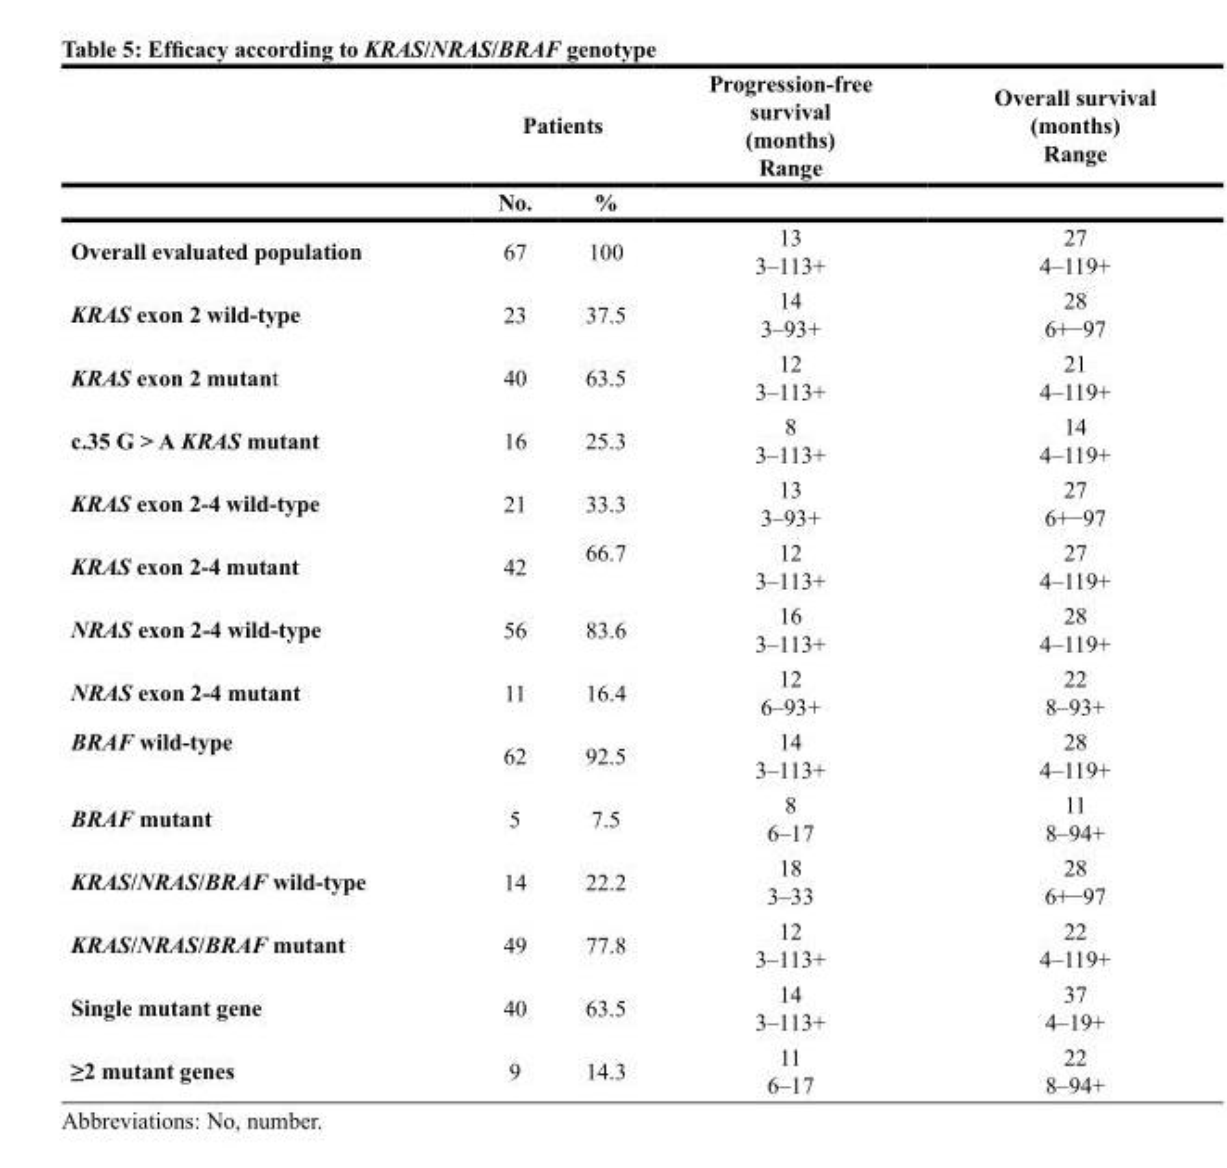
<table><thead><tr><td rowspan="2"></td><td colspan="2">Patients</td><td rowspan="2">Progression-free survival (months) Range</td><td rowspan="2">Overall survival (months) Range</td></tr><tr><td>No.</td><td>%</td></tr></thead><tbody><tr><td>Overall evaluated population</td><td>67</td><td>100</td><td>13 3–113+</td><td>27 4–119+</td></tr><tr><td>KRAS exon 2 wild-type</td><td>23</td><td>37.5</td><td>14 3–93+</td><td>28 6+−97</td></tr><tr><td>KRAS exon 2 mutant</td><td>40</td><td>63.5</td><td>12 3–113+</td><td>21 4–119+</td></tr><tr><td>c.35 G &gt; A KRAS mutant</td><td>16</td><td>25.3</td><td>8 3–113+</td><td>14 4–119+</td></tr><tr><td>KRAS exon 2-4 wild-type</td><td>21</td><td>33.3</td><td>13 3–93+</td><td>27 6+−97</td></tr><tr><td>KRAS exon 2-4 mutant</td><td>42</td><td>66.7</td><td>12 3–113+</td><td>27 4–119+</td></tr><tr><td>NRAS exon 2-4 wild-type</td><td>56</td><td>83.6</td><td>16 3–113+</td><td>28 4–119+</td></tr><tr><td>NRAS exon 2-4 mutant</td><td>11</td><td>16.4</td><td>12 6–93+</td><td>22 8–93+</td></tr><tr><td>BRAF wild-type</td><td>62</td><td>92.5</td><td>14 3–113+</td><td>28 4–119+</td></tr><tr><td>BRAF mutant</td><td>5</td><td>7.5</td><td>8 6–17</td><td>11 8–94+</td></tr><tr><td>KRAS/NRAS/BRAF wild-type</td><td>14</td><td>22.2</td><td>18 3–33</td><td>28 6+−97</td></tr><tr><td>KRAS/NRAS/BRAF mutant</td><td>49</td><td>77.8</td><td>12 3–113+</td><td>22 4–119+</td></tr><tr><td>Single mutant gene</td><td>40</td><td>63.5</td><td>14 3–113+</td><td>37 4–19+</td></tr><tr><td>≥2 mutant genes</td><td>9</td><td>14.3</td><td>11 6–17</td><td>22 8–94+</td></tr></tbody></table>